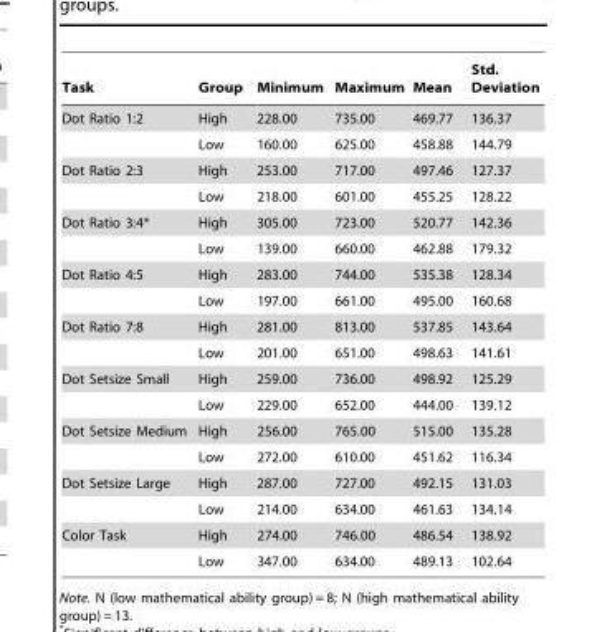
<table><thead><tr><td>Task</td><td>Group</td><td>Minimum</td><td>Maximum</td><td>Mean</td><td>Std. Deviation</td></tr></thead><tbody><tr><td rowspan="2">Dot Ratio 1:2</td><td>High</td><td>228.00</td><td>735.00</td><td>469.77</td><td>136.37</td></tr><tr><td>Low</td><td>160.00</td><td>625.00</td><td>458.88</td><td>144.79</td></tr><tr><td rowspan="2">Dot Ratio 2:3</td><td>High</td><td>253.00</td><td>717.00</td><td>497.46</td><td>127.37</td></tr><tr><td>Low</td><td>218.00</td><td>601.00</td><td>455.25</td><td>128.22</td></tr><tr><td rowspan="2">Dot Ratio 3:4*</td><td>High</td><td>305.00</td><td>723.00</td><td>520.77</td><td>142.36</td></tr><tr><td>Low</td><td>139.00</td><td>660.00</td><td>462.88</td><td>179.32</td></tr><tr><td rowspan="2">Dot Ratio 4:5</td><td>High</td><td>283.00</td><td>744.00</td><td>535.38</td><td>128.34</td></tr><tr><td>Low</td><td>197.00</td><td>661.00</td><td>495.00</td><td>160.68</td></tr><tr><td rowspan="2">Dot Ratio 7:8</td><td>High</td><td>281.00</td><td>813.00</td><td>537.85</td><td>143.64</td></tr><tr><td>Low</td><td>201.00</td><td>651.00</td><td>498.63</td><td>141.61</td></tr><tr><td rowspan="2">Dot Setsize Small</td><td>High</td><td>259.00</td><td>736.00</td><td>498.92</td><td>125.29</td></tr><tr><td>Low</td><td>229.00</td><td>652.00</td><td>444.00</td><td>139.12</td></tr><tr><td rowspan="2">Dot Setsize Medium</td><td>High</td><td>256.00</td><td>765.00</td><td>515.00</td><td>135.28</td></tr><tr><td>Low</td><td>272.00</td><td>610.00</td><td>451.62</td><td>116.34</td></tr><tr><td rowspan="2">Dot Setsize Large</td><td>High</td><td>287.00</td><td>727.00</td><td>492.15</td><td>131.03</td></tr><tr><td>Low</td><td>214.00</td><td>634.00</td><td>461.63</td><td>134.14</td></tr><tr><td rowspan="2">Color Task</td><td>High</td><td>274.00</td><td>746.00</td><td>486.54</td><td>138.92</td></tr><tr><td>Low</td><td>347.00</td><td>634.00</td><td>489.13</td><td>102.64</td></tr></tbody></table>